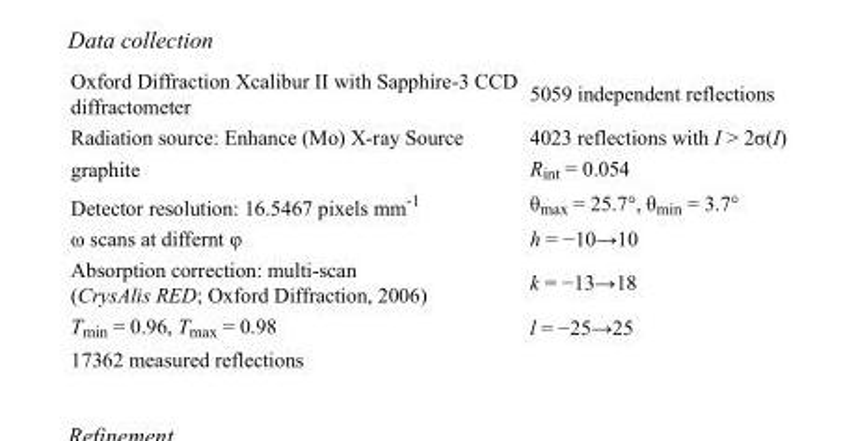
<table><tbody><tr><td>Oxford Diffraction Xcalibur II with Sapphire-3 CCD diffractometer</td><td>5059 independent reflections</td></tr><tr><td>Radiation source: Enhance (Mo) X-ray Source</td><td>4023 reflections with I &gt; 2σ(I)</td></tr><tr><td>graphite</td><td>R<sub>int</sub> = 0.054</td></tr><tr><td>Detector resolution: 16.5467 pixels mm<sup>-1</sup></td><td>θ<sub>max</sub> = 25.7°, θ<sub>min</sub> = 3.7°</td></tr><tr><td>ω scans at differnt φ</td><td>h = −10→10</td></tr><tr><td>Absorption correction: multi-scan (CrysAlis RED; Oxford Diffraction, 2006)</td><td>k = −13→18</td></tr><tr><td>T<sub>min</sub> = 0.96, T<sub>max</sub> = 0.98</td><td>l = −25→25</td></tr><tr><td>17362 measured reflections</td><td></td></tr></tbody></table>